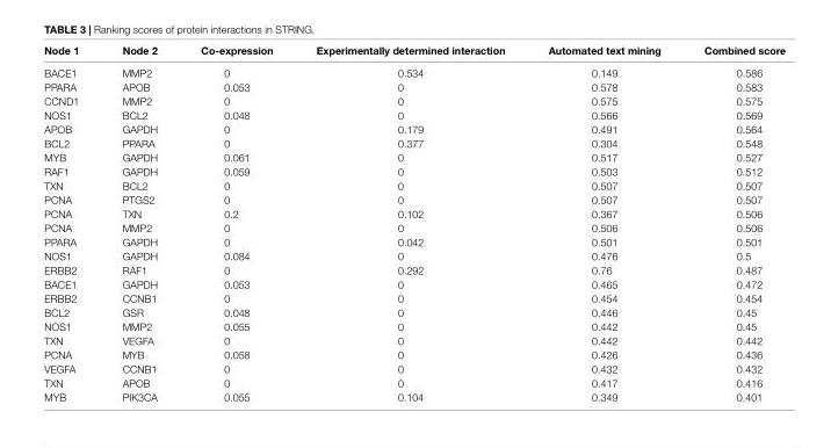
<table><thead><tr><td>Node 1</td><td>Node 2</td><td>Co-expression</td><td>Experimentally determined interaction</td><td>Automated text mining</td><td>Combined score</td></tr></thead><tbody><tr><td>BACE1</td><td>MMP2</td><td>0</td><td>0.534</td><td>0.149</td><td>0.586</td></tr><tr><td>PPARA</td><td>APOB</td><td>0.053</td><td>0</td><td>0.578</td><td>0.583</td></tr><tr><td>CCND1</td><td>MMP2</td><td>0</td><td>0</td><td>0.575</td><td>0.575</td></tr><tr><td>NOS1</td><td>BCL2</td><td>0.048</td><td>0</td><td>0.566</td><td>0.569</td></tr><tr><td>APOB</td><td>GAPDH</td><td>0</td><td>0.179</td><td>0.491</td><td>0.564</td></tr><tr><td>BCL2</td><td>PPARA</td><td>0</td><td>0.377</td><td>0.304</td><td>0.548</td></tr><tr><td>MYB</td><td>GAPDH</td><td>0.061</td><td>0</td><td>0.517</td><td>0.527</td></tr><tr><td>RAF1</td><td>GAPDH</td><td>0.059</td><td>0</td><td>0.503</td><td>0.512</td></tr><tr><td>TXN</td><td>BCL2</td><td>0</td><td>0</td><td>0.507</td><td>0.507</td></tr><tr><td>PCNA</td><td>PTGS2</td><td>0</td><td>0</td><td>0.507</td><td>0.507</td></tr><tr><td>PCNA</td><td>TXN</td><td>0.2</td><td>0.102</td><td>0.367</td><td>0.506</td></tr><tr><td>PCNA</td><td>MMP2</td><td>0</td><td>0</td><td>0.506</td><td>0.506</td></tr><tr><td>PPARA</td><td>GAPDH</td><td>0</td><td>0.042</td><td>0.501</td><td>0.501</td></tr><tr><td>NOS1</td><td>GAPDH</td><td>0.084</td><td>0</td><td>0.476</td><td>0.5</td></tr><tr><td>ERBB2</td><td>RAF1</td><td>0</td><td>0.292</td><td>0.76</td><td>0.487</td></tr><tr><td>BACE1</td><td>GAPDH</td><td>0.053</td><td>0</td><td>0.465</td><td>0.472</td></tr><tr><td>ERBB2</td><td>CCNB1</td><td>0</td><td>0</td><td>0.454</td><td>0.454</td></tr><tr><td>BCL2</td><td>GSR</td><td>0.048</td><td>0</td><td>0.446</td><td>0.45</td></tr><tr><td>NOS1</td><td>MMP2</td><td>0.055</td><td>0</td><td>0.442</td><td>0.45</td></tr><tr><td>TXN</td><td>VEGFA</td><td>0</td><td>0</td><td>0.442</td><td>0.442</td></tr><tr><td>PCNA</td><td>MYB</td><td>0.058</td><td>0</td><td>0.426</td><td>0.436</td></tr><tr><td>VEGFA</td><td>CCNB1</td><td>0</td><td>0</td><td>0.432</td><td>0.432</td></tr><tr><td>TXN</td><td>APOB</td><td>0</td><td>0</td><td>0.417</td><td>0.416</td></tr><tr><td>MYB</td><td>PIK3CA</td><td>0.055</td><td>0.104</td><td>0.349</td><td>0.401</td></tr></tbody></table>